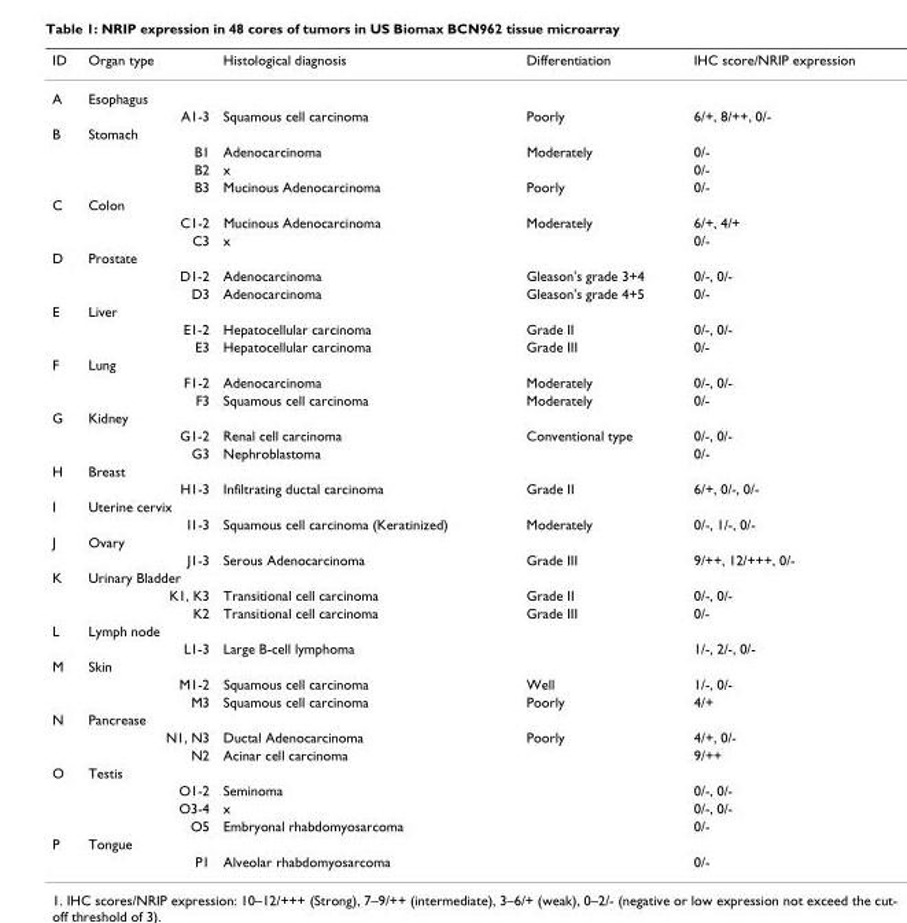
<table><thead><tr><td>ID</td><td>Organ type</td><td>Histological diagnosis</td><td>Differentiation</td><td>IHC score/NRIP expression</td></tr></thead><tbody><tr><td rowspan="2">A</td><td>Esophagus</td><td></td><td></td><td></td></tr><tr><td>A1-3</td><td>Squamous cell carcinoma</td><td>Poorly</td><td>6/+, 8/++, 0/-</td></tr><tr><td rowspan="4">B</td><td>Stomach</td><td></td><td></td><td></td></tr><tr><td>B1</td><td>Adenocarcinoma</td><td>Moderately</td><td>0/-</td></tr><tr><td>B2</td><td>x</td><td></td><td>0/-</td></tr><tr><td>B3</td><td>Mucinous Adenocarcinoma</td><td>Poorly</td><td>0/-</td></tr><tr><td rowspan="3">C</td><td>Colon</td><td></td><td></td><td></td></tr><tr><td>C1-2</td><td>Mucinous Adenocarcinoma</td><td>Moderately</td><td>6/+, 4/+</td></tr><tr><td>C3</td><td>x</td><td></td><td>0/-</td></tr><tr><td rowspan="3">D</td><td>Prostate</td><td></td><td></td><td></td></tr><tr><td>D1-2</td><td>Adenocarcinoma</td><td>Gleason&#x27;s grade 3+4</td><td>0/-, 0/-</td></tr><tr><td>D3</td><td>Adenocarcinoma</td><td>Gleason&#x27;s grade 4+5</td><td>0/-</td></tr><tr><td rowspan="3">E</td><td>Liver</td><td></td><td></td><td></td></tr><tr><td>E1-2</td><td>Hepatocellular carcinoma</td><td>Grade II</td><td>0/-, 0/-</td></tr><tr><td>E3</td><td>Hepatocellular carcinoma</td><td>Grade III</td><td>0/-</td></tr><tr><td rowspan="3">F</td><td>Lung</td><td></td><td></td><td></td></tr><tr><td>F1-2</td><td>Adenocarcinoma</td><td>Moderately</td><td>0/-, 0/-</td></tr><tr><td>F3</td><td>Squamous cell carcinoma</td><td>Moderately</td><td>0/-</td></tr><tr><td rowspan="3">G</td><td>Kidney</td><td></td><td></td><td></td></tr><tr><td>G1-2</td><td>Renal cell carcinoma</td><td>Conventional type</td><td>0/-, 0/-</td></tr><tr><td>G3</td><td>Nephroblastoma</td><td></td><td>0/-</td></tr><tr><td rowspan="2">H</td><td>Breast</td><td></td><td></td><td></td></tr><tr><td>H1-3</td><td>Infiltrating ductal carcinoma</td><td>Grade II</td><td>6/+, 0/-, 0/-</td></tr><tr><td rowspan="2">I</td><td>Uterine cervix</td><td></td><td></td><td></td></tr><tr><td>I1-3</td><td>Squamous cell carcinoma (Keratinized)</td><td>Moderately</td><td>0/-, 1/-, 0/-</td></tr><tr><td rowspan="2">J</td><td>Ovary</td><td></td><td></td><td></td></tr><tr><td>J1-3</td><td>Serous Adenocarcinoma</td><td>Grade III</td><td>9/++, 12/+++, 0/-</td></tr><tr><td rowspan="3">K</td><td>Urinary Bladder</td><td></td><td></td><td></td></tr><tr><td>K1, K3</td><td>Transitional cell carcinoma</td><td>Grade II</td><td>0/-, 0/-</td></tr><tr><td>K2</td><td>Transitional cell carcinoma</td><td>Grade III</td><td>0/-</td></tr><tr><td rowspan="2">L</td><td>Lymph node</td><td></td><td></td><td></td></tr><tr><td>L1-3</td><td>Large B-cell lymphoma</td><td></td><td>1/-, 2/-, 0/-</td></tr><tr><td rowspan="3">M</td><td>Skin</td><td></td><td></td><td></td></tr><tr><td>M1-2</td><td>Squamous cell carcinoma</td><td>Well</td><td>1/-, 0/-</td></tr><tr><td>M3</td><td>Squamous cell carcinoma</td><td>Poorly</td><td>4/+</td></tr><tr><td rowspan="3">N</td><td>Pancrease</td><td></td><td></td><td></td></tr><tr><td>N1, N3</td><td>Ductal Adenocarcinoma</td><td>Poorly</td><td>4/+, 0/-</td></tr><tr><td>N2</td><td>Acinar cell carcinoma</td><td></td><td>9/++</td></tr><tr><td rowspan="4">O</td><td>Testis</td><td></td><td></td><td></td></tr><tr><td>O1-2</td><td>Seminoma</td><td></td><td>0/-, 0/-</td></tr><tr><td>O3-4</td><td>x</td><td></td><td>0/-, 0/-</td></tr><tr><td>O5</td><td>Embryonal rhabdomyosarcoma</td><td></td><td>0/-</td></tr><tr><td rowspan="2">P</td><td>Tongue</td><td></td><td></td><td></td></tr><tr><td>P1</td><td>Alveolar rhabdomyosarcoma</td><td></td><td>0/-</td></tr></tbody></table>